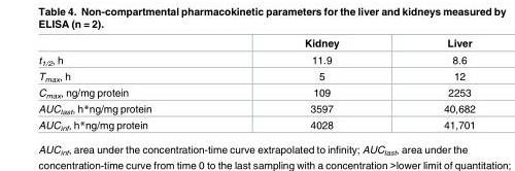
<table><thead><tr><td></td><td>Kidney</td><td>Liver</td></tr></thead><tbody><tr><td>t<sub>1/2</sub>, h</td><td>11.9</td><td>8.6</td></tr><tr><td>T<sub>max</sub>, h</td><td>5</td><td>12</td></tr><tr><td>C<sub>max</sub>, ng/mg protein</td><td>109</td><td>2253</td></tr><tr><td>AUC<sub>last</sub>, h*ng/mg protein</td><td>3597</td><td>40,682</td></tr><tr><td>AUC<sub>inf</sub>, h*ng/mg protein</td><td>4028</td><td>41,701</td></tr></tbody></table>